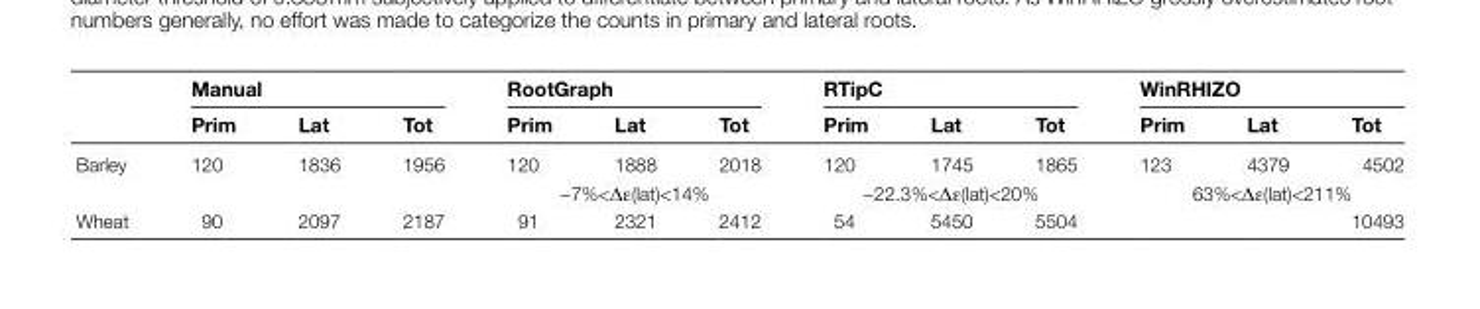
<table><thead><tr><td rowspan="2"></td><td colspan="3">Manual</td><td colspan="3">RootGraph</td><td colspan="3">RTipC</td><td colspan="3">WinRHIZO</td></tr><tr><td>Prim</td><td>Lat</td><td>Tot</td><td>Prim</td><td>Lat</td><td>Tot</td><td>Prim</td><td>Lat</td><td>Tot</td><td>Prim</td><td>Lat</td><td>Tot</td></tr></thead><tbody><tr><td rowspan="2">Barley</td><td>120</td><td>1836</td><td>1956</td><td>120</td><td>1888</td><td>2018</td><td>120</td><td>1745</td><td>1865</td><td>123</td><td>4379</td><td>4502</td></tr><tr><td colspan="3"></td><td colspan="3">−7%&lt;Δε(lat)&lt;14%</td><td colspan="3">−22.3%&lt;Δε(lat)&lt;20%</td><td colspan="3">63%&lt;Δε(lat)&lt;211%</td></tr><tr><td>Wheat</td><td>90</td><td>2097</td><td>2187</td><td>91</td><td>2321</td><td>2412</td><td>54</td><td>5450</td><td>5504</td><td></td><td></td><td>10493</td></tr></tbody></table>